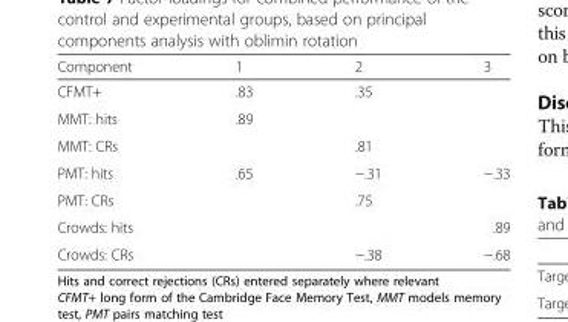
<table><thead><tr><td>Component</td><td>1</td><td>2</td><td>3</td></tr></thead><tbody><tr><td>CFMT+</td><td>.83</td><td>.35</td><td></td></tr><tr><td>MMT: hits</td><td>.89</td><td></td><td></td></tr><tr><td>MMT: CRs</td><td></td><td>.81</td><td></td></tr><tr><td>PMT: hits</td><td>.65</td><td>−.31</td><td>−.33</td></tr><tr><td>PMT: CRs</td><td></td><td>.75</td><td></td></tr><tr><td>Crowds: hits</td><td></td><td></td><td>.89</td></tr><tr><td>Crowds: CRs</td><td></td><td>−.38</td><td>−.68</td></tr></tbody></table>